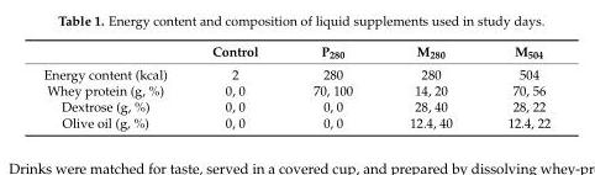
<table><thead><tr><td></td><td>Control</td><td>P<sub>280</sub></td><td>M<sub>280</sub></td><td>M<sub>504</sub></td></tr></thead><tbody><tr><td>Energy content (kcal)</td><td>2</td><td>280</td><td>280</td><td>504</td></tr><tr><td>Whey protein (g, %)</td><td>0, 0</td><td>70, 100</td><td>14, 20</td><td>70, 56</td></tr><tr><td>Dextrose (g, %)</td><td>0, 0</td><td>0, 0</td><td>28, 40</td><td>28, 22</td></tr><tr><td>Olive oil (g, %)</td><td>0, 0</td><td>0, 0</td><td>12.4, 40</td><td>12.4, 22</td></tr></tbody></table>